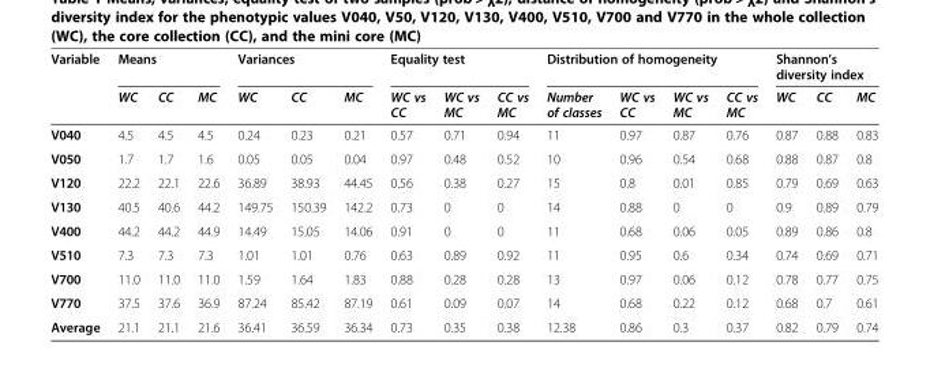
<table><thead><tr><td rowspan="2">Variable</td><td colspan="3">Means</td><td colspan="3">Variances</td><td colspan="3">Equality test</td><td colspan="4">Distribution of homogeneity</td><td colspan="3">Shannon’s diversity index</td></tr><tr><td>WC</td><td>CC</td><td>MC</td><td>WC</td><td>CC</td><td>MC</td><td>WC vs CC</td><td>WC vs MC</td><td>CC vs MC</td><td>Number of classes</td><td>WC vs CC</td><td>WC vs MC</td><td>CC vs MC</td><td>WC</td><td>CC</td><td>MC</td></tr></thead><tbody><tr><td>V040</td><td>4.5</td><td>4.5</td><td>4.5</td><td>0.24</td><td>0.23</td><td>0.21</td><td>0.57</td><td>0.71</td><td>0.94</td><td>11</td><td>0.97</td><td>0.87</td><td>0.76</td><td>0.87</td><td>0.88</td><td>0.83</td></tr><tr><td>V050</td><td>1.7</td><td>1.7</td><td>1.6</td><td>0.05</td><td>0.05</td><td>0.04</td><td>0.97</td><td>0.48</td><td>0.52</td><td>10</td><td>0.96</td><td>0.54</td><td>0.68</td><td>0.88</td><td>0.87</td><td>0.8</td></tr><tr><td>V120</td><td>22.2</td><td>22.1</td><td>22.6</td><td>36.89</td><td>38.93</td><td>44.45</td><td>0.56</td><td>0.38</td><td>0.27</td><td>15</td><td>0.8</td><td>0.01</td><td>0.85</td><td>0.79</td><td>0.69</td><td>0.63</td></tr><tr><td>V130</td><td>40.5</td><td>40.6</td><td>44.2</td><td>149.75</td><td>150.39</td><td>142.2</td><td>0.73</td><td>0</td><td>0</td><td>14</td><td>0.88</td><td>0</td><td>0</td><td>0.9</td><td>0.89</td><td>0.79</td></tr><tr><td>V400</td><td>44.2</td><td>44.2</td><td>44.9</td><td>14.49</td><td>15.05</td><td>14.06</td><td>0.91</td><td>0</td><td>0</td><td>11</td><td>0.68</td><td>0.06</td><td>0.05</td><td>0.89</td><td>0.86</td><td>0.8</td></tr><tr><td>V510</td><td>7.3</td><td>7.3</td><td>7.3</td><td>1.01</td><td>1.01</td><td>0.76</td><td>0.63</td><td>0.89</td><td>0.92</td><td>11</td><td>0.95</td><td>0.6</td><td>0.34</td><td>0.74</td><td>0.69</td><td>0.71</td></tr><tr><td>V700</td><td>11.0</td><td>11.0</td><td>11.0</td><td>1.59</td><td>1.64</td><td>1.83</td><td>0.88</td><td>0.28</td><td>0.28</td><td>13</td><td>0.97</td><td>0.06</td><td>0.12</td><td>0.78</td><td>0.77</td><td>0.75</td></tr><tr><td>V770</td><td>37.5</td><td>37.6</td><td>36.9</td><td>87.24</td><td>85.42</td><td>87.19</td><td>0.61</td><td>0.09</td><td>0.07</td><td>14</td><td>0.68</td><td>0.22</td><td>0.12</td><td>0.68</td><td>0.7</td><td>0.61</td></tr><tr><td>Average</td><td>21.1</td><td>21.1</td><td>21.6</td><td>36.41</td><td>36.59</td><td>36.34</td><td>0.73</td><td>0.35</td><td>0.38</td><td>12.38</td><td>0.86</td><td>0.3</td><td>0.37</td><td>0.82</td><td>0.79</td><td>0.74</td></tr></tbody></table>